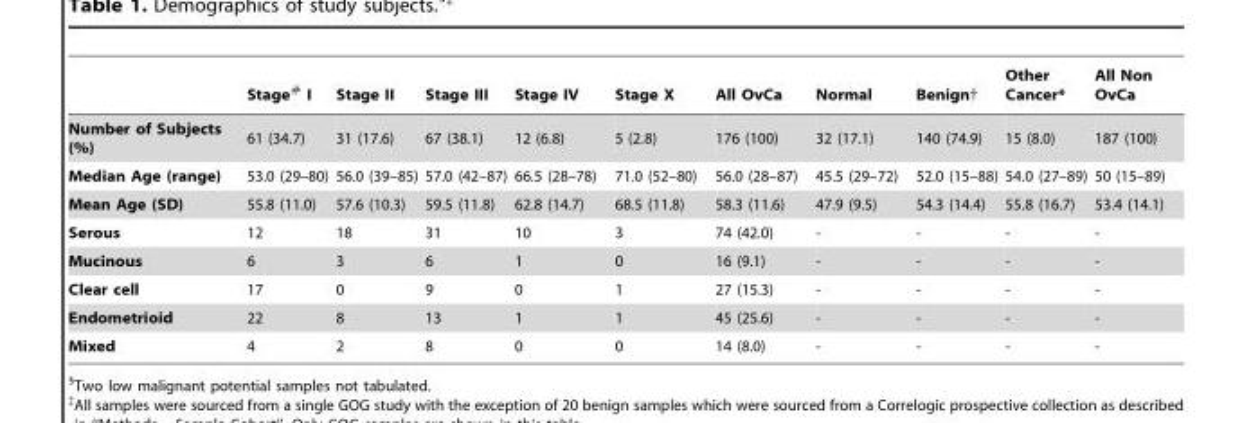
<table><thead><tr><td></td><td>Stage# I</td><td>Stage II</td><td>Stage III</td><td>Stage IV</td><td>Stage X</td><td>All OvCa</td><td>Normal</td><td>Benign†</td><td>Other Cancer*</td><td>All Non OvCa</td></tr></thead><tbody><tr><td>Number of Subjects (%)</td><td>61 (34.7)</td><td>31 (17.6)</td><td>67 (38.1)</td><td>12 (6.8)</td><td>5 (2.8)</td><td>176 (100)</td><td>32 (17.1)</td><td>140 (74.9)</td><td>15 (8.0)</td><td>187 (100)</td></tr><tr><td>Median Age (range)</td><td>53.0 (29–80)</td><td>56.0 (39–85)</td><td>57.0 (42–87)</td><td>66.5 (28–78)</td><td>71.0 (52–80)</td><td>56.0 (28–87)</td><td>45.5 (29–72)</td><td>52.0 (15–88)</td><td>54.0 (27–89)</td><td>50 (15–89)</td></tr><tr><td>Mean Age (SD)</td><td>55.8 (11.0)</td><td>57.6 (10.3)</td><td>59.5 (11.8)</td><td>62.8 (14.7)</td><td>68.5 (11.8)</td><td>58.3 (11.6)</td><td>47.9 (9.5)</td><td>54.3 (14.4)</td><td>55.8 (16.7)</td><td>53.4 (14.1)</td></tr><tr><td>Serous</td><td>12</td><td>18</td><td>31</td><td>10</td><td>3</td><td>74 (42.0)</td><td>-</td><td>-</td><td>-</td><td>-</td></tr><tr><td>Mucinous</td><td>6</td><td>3</td><td>6</td><td>1</td><td>0</td><td>16 (9.1)</td><td>-</td><td>-</td><td>-</td><td>-</td></tr><tr><td>Clear cell</td><td>17</td><td>0</td><td>9</td><td>0</td><td>1</td><td>27 (15.3)</td><td>-</td><td>-</td><td>-</td><td>-</td></tr><tr><td>Endometrioid</td><td>22</td><td>8</td><td>13</td><td>1</td><td>1</td><td>45 (25.6)</td><td>-</td><td>-</td><td>-</td><td>-</td></tr><tr><td>Mixed</td><td>4</td><td>2</td><td>8</td><td>0</td><td>0</td><td>14 (8.0)</td><td>-</td><td>-</td><td>-</td><td>-</td></tr></tbody></table>